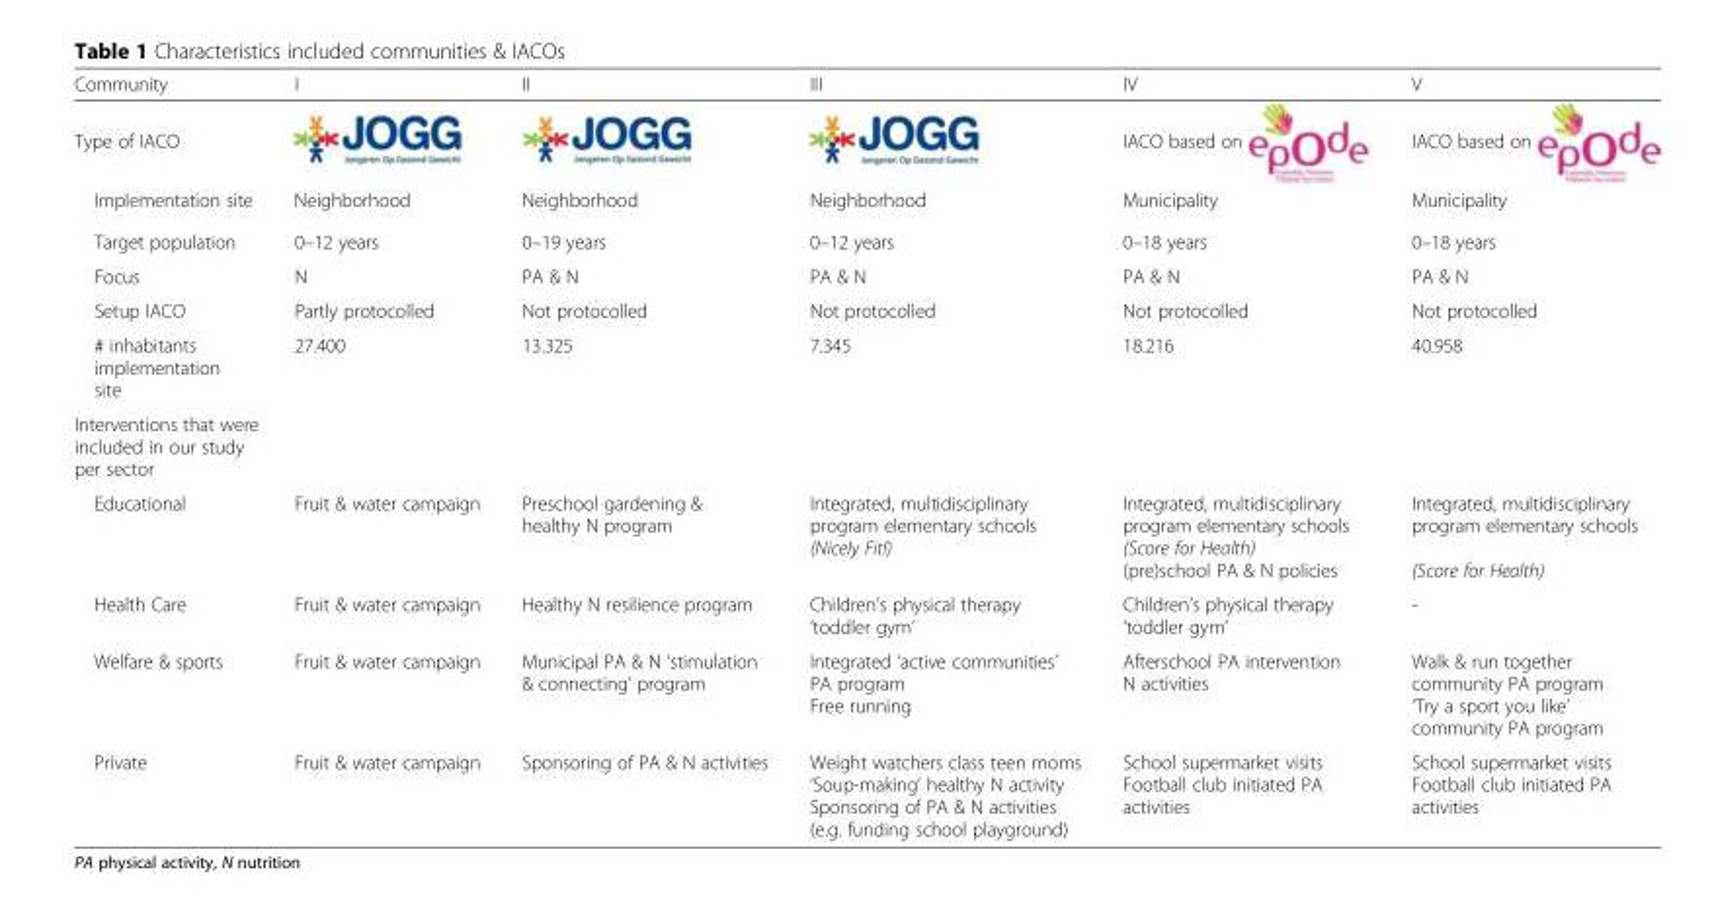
<table><thead><tr><td>Community</td><td>I</td><td>II</td><td>III</td><td>IV</td><td>V</td></tr></thead><tbody><tr><td>Type of IACO</td><td></td><td></td><td></td><td>IACO based on</td><td>IACO based on</td></tr><tr><td>Implementation site</td><td>Neighborhood</td><td>Neighborhood</td><td>Neighborhood</td><td>Municipality</td><td>Municipality</td></tr><tr><td>Target population</td><td>0–12 years</td><td>0–19 years</td><td>0–12 years</td><td>0–18 years</td><td>0–18 years</td></tr><tr><td>Focus</td><td>N</td><td>PA &amp; N</td><td>PA &amp; N</td><td>PA &amp; N</td><td>PA &amp; N</td></tr><tr><td>Setup IACO</td><td>Partly protocolled</td><td>Not protocolled</td><td>Not protocolled</td><td>Not protocolled</td><td>Not protocolled</td></tr><tr><td># inhabitants implementation site</td><td>27.400</td><td>13.325</td><td>7.345</td><td>18.216</td><td>40.958</td></tr><tr><td colspan="6">Interventions that were included in our study per sector</td></tr><tr><td>Educational</td><td>Fruit &amp; water campaign</td><td>Preschool gardening &amp; healthy N program</td><td>Integrated, multidisciplinary program elementary schools (Nicely Fit!)</td><td>Integrated, multidisciplinary program elementary schools (Score for Health) (pre)school PA &amp; N policies</td><td>Integrated, multidisciplinary program elementary schools (Score for Health)</td></tr><tr><td>Health Care</td><td>Fruit &amp; water campaign</td><td>Healthy N resilience program</td><td>Children’s physical therapy ‘toddler gym’</td><td>Children’s physical therapy ‘toddler gym’</td><td>-</td></tr><tr><td>Welfare &amp; sports</td><td>Fruit &amp; water campaign</td><td>Municipal PA &amp; N ‘stimulation &amp; connecting’ program</td><td>Integrated ‘active communities’ PA program Free running</td><td>Afterschool PA intervention N activities</td><td>Walk &amp; run together community PA program ‘Try a sport you like’ community PA program</td></tr><tr><td>Private</td><td>Fruit &amp; water campaign</td><td>Sponsoring of PA &amp; N activities</td><td>Weight watchers class teen moms ‘Soup-making’ healthy N activity Sponsoring of PA &amp; N activities (e.g. funding school playground)</td><td>School supermarket visits Football club initiated PA activities</td><td>School supermarket visits Football club initiated PA activities</td></tr></tbody></table>